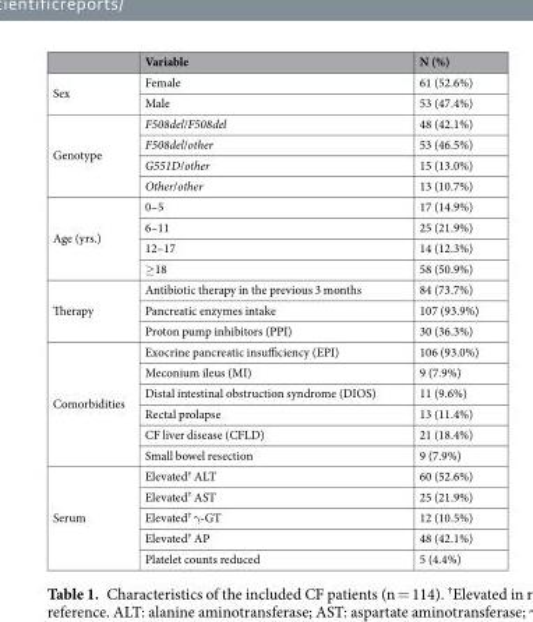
<table><thead><tr><td></td><td>Variable</td><td>N (%)</td></tr></thead><tbody><tr><td rowspan="2">Sex</td><td>Female</td><td>61 (52.6%)</td></tr><tr><td>Male</td><td>53 (47.4%)</td></tr><tr><td rowspan="4">Genotype</td><td>F508del/F508del</td><td>48 (42.1%)</td></tr><tr><td>F508del/other</td><td>53 (46.5%)</td></tr><tr><td>G551D/other</td><td>15 (13.0%)</td></tr><tr><td>Other/other</td><td>13 (10.7%)</td></tr><tr><td rowspan="4">Age (yrs.)</td><td>0–5</td><td>17 (14.9%)</td></tr><tr><td>6–11</td><td>25 (21.9%)</td></tr><tr><td>12–17</td><td>14 (12.3%)</td></tr><tr><td>≥18</td><td>58 (50.9%)</td></tr><tr><td rowspan="3">Therapy</td><td>Antibiotic therapy in the previous 3 months</td><td>84 (73.7%)</td></tr><tr><td>Pancreatic enzymes intake</td><td>107 (93.9%)</td></tr><tr><td>Proton pump inhibitors (PPI)</td><td>30 (36.3%)</td></tr><tr><td rowspan="6">Comorbidities</td><td>Exocrine pancreatic insufficiency (EPI)</td><td>106 (93.0%)</td></tr><tr><td>Meconium ileus (MI)</td><td>9 (7.9%)</td></tr><tr><td>Distal intestinal obstruction syndrome (DIOS)</td><td>11 (9.6%)</td></tr><tr><td>Rectal prolapse</td><td>13 (11.4%)</td></tr><tr><td>CF liver disease (CFLD)</td><td>21 (18.4%)</td></tr><tr><td>Small bowel resection</td><td>9 (7.9%)</td></tr><tr><td rowspan="5">Serum</td><td>Elevated<sup>†</sup> ALT</td><td>60 (52.6%)</td></tr><tr><td>Elevated<sup>†</sup> AST</td><td>25 (21.9%)</td></tr><tr><td>Elevated<sup>†</sup> γ-GT</td><td>12 (10.5%)</td></tr><tr><td>Elevated<sup>†</sup> AP</td><td>48 (42.1%)</td></tr><tr><td>Platelet counts reduced</td><td>5 (4.4%)</td></tr></tbody></table>